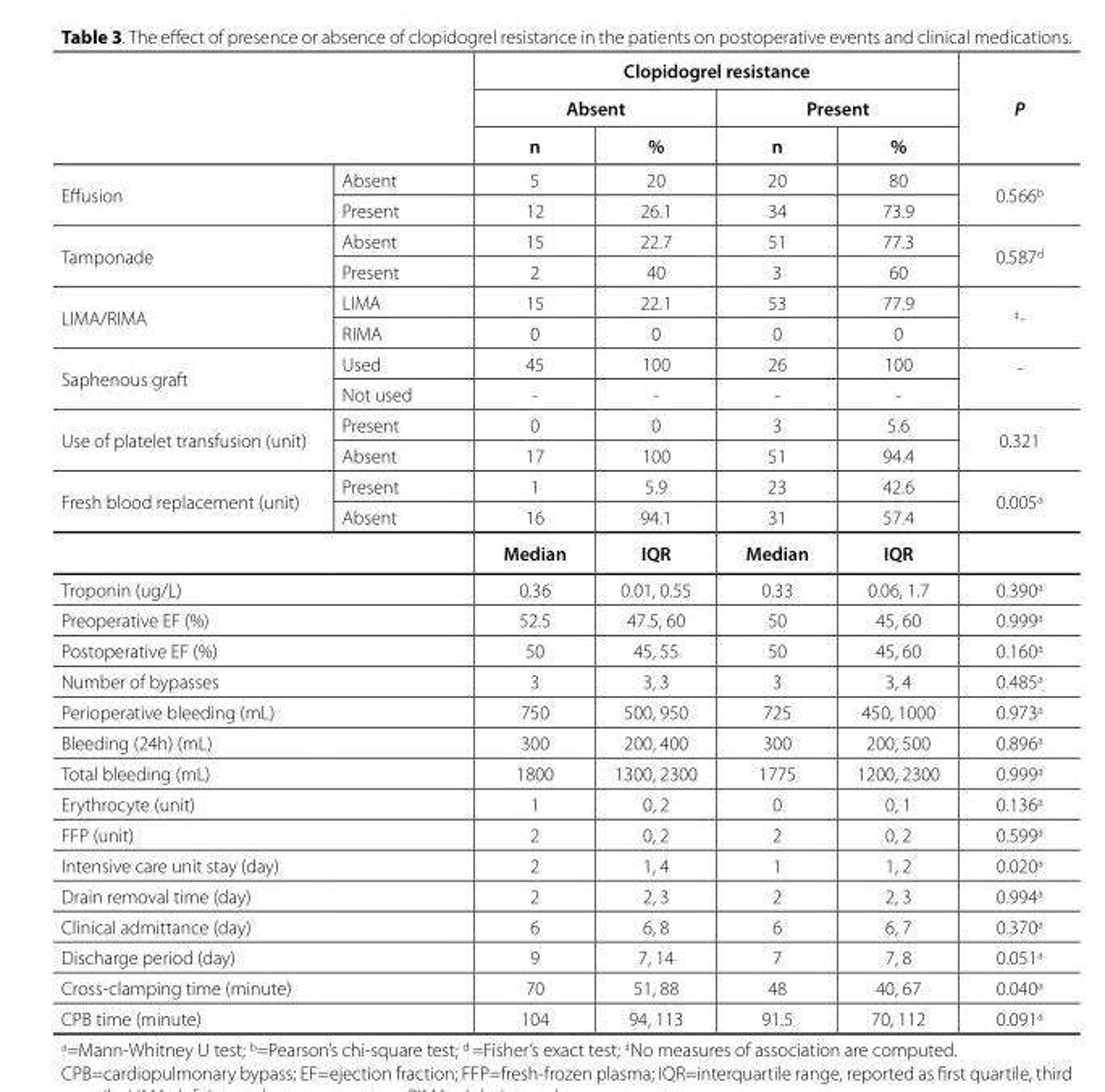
<table><thead><tr><td rowspan="3"></td><td rowspan="3"></td><td colspan="4">Clopidogrel resistance</td><td rowspan="3">P</td></tr><tr><td colspan="2">Absent</td><td colspan="2">Present</td></tr><tr><td>n</td><td>%</td><td>n</td><td>%</td></tr></thead><tbody><tr><td rowspan="2">Effusion</td><td>Absent</td><td>5</td><td>20</td><td>20</td><td>80</td><td rowspan="2">0.566<sup>b</sup></td></tr><tr><td>Present</td><td>12</td><td>26.1</td><td>34</td><td>73.9</td></tr><tr><td rowspan="2">Tamponade</td><td>Absent</td><td>15</td><td>22.7</td><td>51</td><td>77.3</td><td rowspan="2">0.587<sup>d</sup></td></tr><tr><td>Present</td><td>2</td><td>40</td><td>3</td><td>60</td></tr><tr><td rowspan="2">LIMA/RIMA</td><td>LIMA</td><td>15</td><td>22.1</td><td>53</td><td>77.9</td><td rowspan="2"><sup>‡</sup>-</td></tr><tr><td>RIMA</td><td>0</td><td>0</td><td>0</td><td>0</td></tr><tr><td rowspan="2">Saphenous graft</td><td>Used</td><td>45</td><td>100</td><td>26</td><td>100</td><td rowspan="2">-</td></tr><tr><td>Not used</td><td>-</td><td>-</td><td>-</td><td>-</td></tr><tr><td rowspan="2">Use of platelet transfusion (unit)</td><td>Present</td><td>0</td><td>0</td><td>3</td><td>5.6</td><td rowspan="2">0.321</td></tr><tr><td>Absent</td><td>17</td><td>100</td><td>51</td><td>94.4</td></tr><tr><td rowspan="2">Fresh blood replacement (unit)</td><td>Present</td><td>1</td><td>5.9</td><td>23</td><td>42.6</td><td rowspan="2">0.005<sup>a</sup></td></tr><tr><td>Absent</td><td>16</td><td>94.1</td><td>31</td><td>57.4</td></tr><tr><td colspan="2"></td><td>Median</td><td>IQR</td><td>Median</td><td>IQR</td><td></td></tr><tr><td colspan="2">Troponin (ug/L)</td><td>0.36</td><td>0.01, 0.55</td><td>0.33</td><td>0.06, 1.7</td><td>0.390<sup>a</sup></td></tr><tr><td colspan="2">Preoperative EF (%)</td><td>52.5</td><td>47.5, 60</td><td>50</td><td>45, 60</td><td>0.999<sup>a</sup></td></tr><tr><td colspan="2">Postoperative EF (%)</td><td>50</td><td>45, 55</td><td>50</td><td>45, 60</td><td>0.160<sup>a</sup></td></tr><tr><td colspan="2">Number of bypasses</td><td>3</td><td>3, 3</td><td>3</td><td>3, 4</td><td>0.485<sup>a</sup></td></tr><tr><td colspan="2">Perioperative bleeding (mL)</td><td>750</td><td>500, 950</td><td>725</td><td>450, 1000</td><td>0.973<sup>a</sup></td></tr><tr><td colspan="2">Bleeding (24h) (mL)</td><td>300</td><td>200, 400</td><td>300</td><td>200, 500</td><td>0.896<sup>a</sup></td></tr><tr><td colspan="2">Total bleeding (mL)</td><td>1800</td><td>1300, 2300</td><td>1775</td><td>1200, 2300</td><td>0.999<sup>a</sup></td></tr><tr><td colspan="2">Erythrocyte (unit)</td><td>1</td><td>0, 2</td><td>0</td><td>0, 1</td><td>0.136<sup>a</sup></td></tr><tr><td colspan="2">FFP (unit)</td><td>2</td><td>0, 2</td><td>2</td><td>0, 2</td><td>0.599<sup>a</sup></td></tr><tr><td colspan="2">Intensive care unit stay (day)</td><td>2</td><td>1, 4</td><td>1</td><td>1, 2</td><td>0.020<sup>a</sup></td></tr><tr><td colspan="2">Drain removal time (day)</td><td>2</td><td>2, 3</td><td>2</td><td>2, 3</td><td>0.994<sup>a</sup></td></tr><tr><td colspan="2">Clinical admittance (day)</td><td>6</td><td>6, 8</td><td>6</td><td>6, 7</td><td>0.370<sup>a</sup></td></tr><tr><td colspan="2">Discharge period (day)</td><td>9</td><td>7, 14</td><td>7</td><td>7, 8</td><td>0.051<sup>a</sup></td></tr><tr><td colspan="2">Cross-clamping time (minute)</td><td>70</td><td>51, 88</td><td>48</td><td>40, 67</td><td>0.040<sup>a</sup></td></tr><tr><td colspan="2">CPB time (minute)</td><td>104</td><td>94, 113</td><td>91.5</td><td>70, 112</td><td>0.091<sup>a</sup></td></tr></tbody></table>